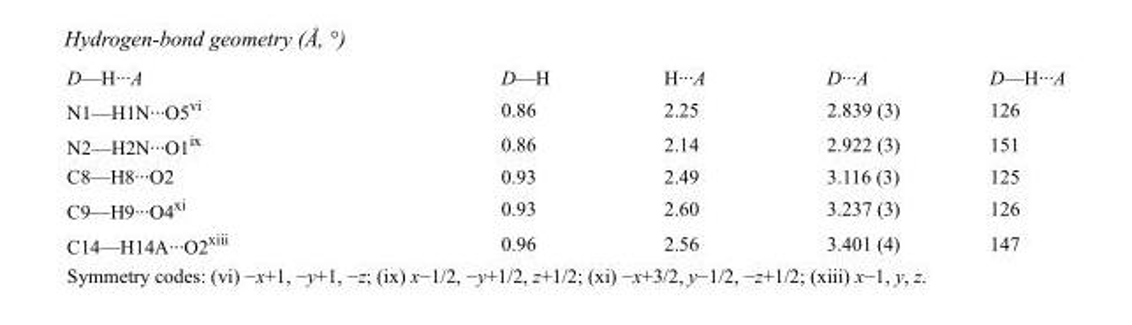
<table><tbody><tr><td>D—H···A</td><td>D—H</td><td>H···A</td><td>D···A</td><td>D—H···A</td></tr><tr><td>N1—H1N···O5<sup>vi</sup></td><td>0.86</td><td>2.25</td><td>2.839 (3)</td><td>126</td></tr><tr><td>N2—H2N···O1<sup>ix</sup></td><td>0.86</td><td>2.14</td><td>2.922 (3)</td><td>151</td></tr><tr><td>C8—H8···O2</td><td>0.93</td><td>2.49</td><td>3.116 (3)</td><td>125</td></tr><tr><td>C9—H9···O4<sup>xi</sup></td><td>0.93</td><td>2.60</td><td>3.237 (3)</td><td>126</td></tr><tr><td>C14—H14A···O2<sup>xiii</sup></td><td>0.96</td><td>2.56</td><td>3.401 (4)</td><td>147</td></tr></tbody></table>